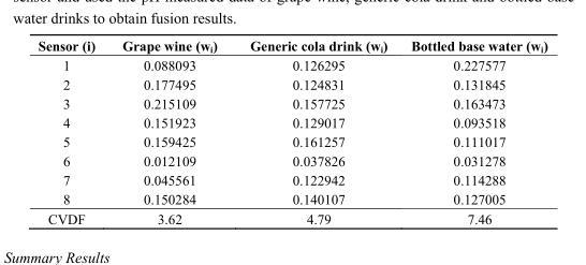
<table><thead><tr><td>Sensor (i)</td><td>Grape wine (w<sub>i</sub>)</td><td>Generic cola drink (w<sub>i</sub>)</td><td>Bottled base water (w<sub>i</sub>)</td></tr></thead><tbody><tr><td>1</td><td>0.088093</td><td>0.126295</td><td>0.227577</td></tr><tr><td>2</td><td>0.177495</td><td>0.124831</td><td>0.131845</td></tr><tr><td>3</td><td>0.215109</td><td>0.157725</td><td>0.163473</td></tr><tr><td>4</td><td>0.151923</td><td>0.129017</td><td>0.093518</td></tr><tr><td>5</td><td>0.159425</td><td>0.161257</td><td>0.111017</td></tr><tr><td>6</td><td>0.012109</td><td>0.037826</td><td>0.031278</td></tr><tr><td>7</td><td>0.045561</td><td>0.122942</td><td>0.114288</td></tr><tr><td>8</td><td>0.150284</td><td>0.140107</td><td>0.127005</td></tr><tr><td>CVDF</td><td>3.62</td><td>4.79</td><td>7.46</td></tr></tbody></table>